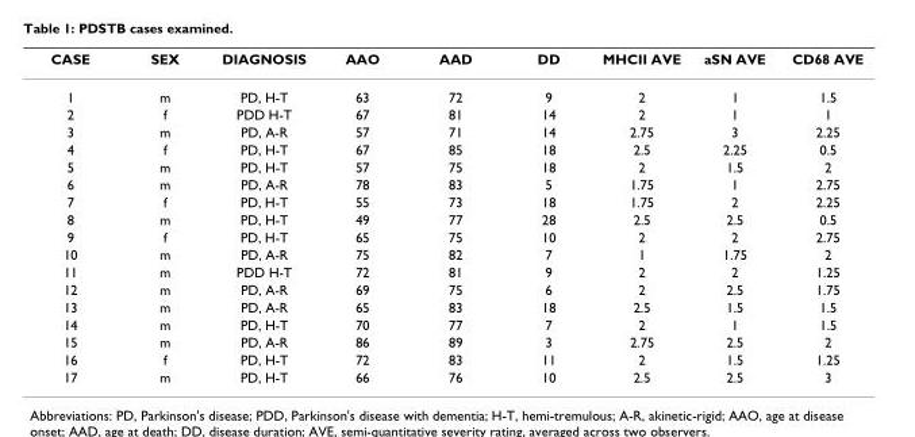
<table><thead><tr><td>CASE</td><td>SEX</td><td>DIAGNOSIS</td><td>AAO</td><td>AAD</td><td>DD</td><td>MHCII AVE</td><td>aSN AVE</td><td>CD68 AVE</td></tr></thead><tbody><tr><td>1</td><td>m</td><td>PD, H-T</td><td>63</td><td>72</td><td>9</td><td>2</td><td>1</td><td>1.5</td></tr><tr><td>2</td><td>f</td><td>PDD H-T</td><td>67</td><td>81</td><td>14</td><td>2</td><td>1</td><td>1</td></tr><tr><td>3</td><td>m</td><td>PD, A-R</td><td>57</td><td>71</td><td>14</td><td>2.75</td><td>3</td><td>2.25</td></tr><tr><td>4</td><td>f</td><td>PD, H-T</td><td>67</td><td>85</td><td>18</td><td>2.5</td><td>2.25</td><td>0.5</td></tr><tr><td>5</td><td>m</td><td>PD, H-T</td><td>57</td><td>75</td><td>18</td><td>2</td><td>1.5</td><td>2</td></tr><tr><td>6</td><td>m</td><td>PD, A-R</td><td>78</td><td>83</td><td>5</td><td>1.75</td><td>1</td><td>2.75</td></tr><tr><td>7</td><td>f</td><td>PD, H-T</td><td>55</td><td>73</td><td>18</td><td>1.75</td><td>2</td><td>2.25</td></tr><tr><td>8</td><td>m</td><td>PD, H-T</td><td>49</td><td>77</td><td>28</td><td>2.5</td><td>2.5</td><td>0.5</td></tr><tr><td>9</td><td>f</td><td>PD, H-T</td><td>65</td><td>75</td><td>10</td><td>2</td><td>2</td><td>2.75</td></tr><tr><td>10</td><td>m</td><td>PD, A-R</td><td>75</td><td>82</td><td>7</td><td>1</td><td>1.75</td><td>2</td></tr><tr><td>11</td><td>m</td><td>PDD H-T</td><td>72</td><td>81</td><td>9</td><td>2</td><td>2</td><td>1.25</td></tr><tr><td>12</td><td>m</td><td>PD, A-R</td><td>69</td><td>75</td><td>6</td><td>2</td><td>2.5</td><td>1.75</td></tr><tr><td>13</td><td>m</td><td>PD, A-R</td><td>65</td><td>83</td><td>18</td><td>2.5</td><td>1.5</td><td>1.5</td></tr><tr><td>14</td><td>m</td><td>PD, H-T</td><td>70</td><td>77</td><td>7</td><td>2</td><td>1</td><td>1.5</td></tr><tr><td>15</td><td>m</td><td>PD, A-R</td><td>86</td><td>89</td><td>3</td><td>2.75</td><td>2.5</td><td>2</td></tr><tr><td>16</td><td>f</td><td>PD, H-T</td><td>72</td><td>83</td><td>11</td><td>2</td><td>1.5</td><td>1.25</td></tr><tr><td>17</td><td>m</td><td>PD, H-T</td><td>66</td><td>76</td><td>10</td><td>2.5</td><td>2.5</td><td>3</td></tr></tbody></table>